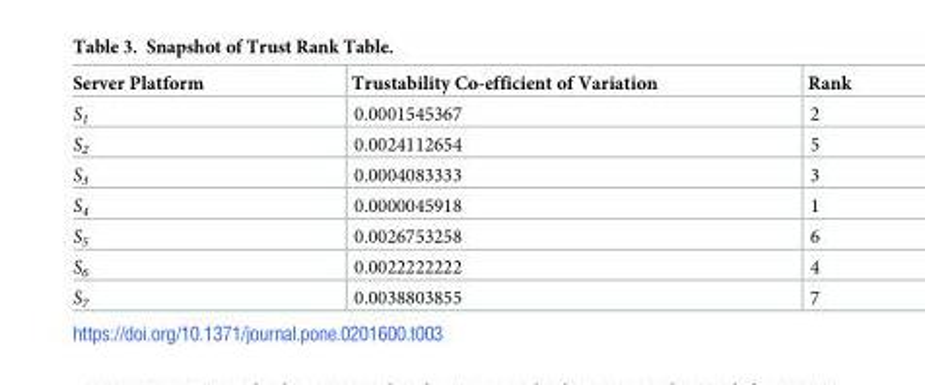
<table><thead><tr><td>Server Platform</td><td>Trustability Co-efficient of Variation</td><td>Rank</td></tr></thead><tbody><tr><td>S<sub>1</sub></td><td>0.0001545367</td><td>2</td></tr><tr><td>S<sub>2</sub></td><td>0.0024112654</td><td>5</td></tr><tr><td>S<sub>3</sub></td><td>0.0004083333</td><td>3</td></tr><tr><td>S<sub>4</sub></td><td>0.0000045918</td><td>1</td></tr><tr><td>S<sub>5</sub></td><td>0.0026753258</td><td>6</td></tr><tr><td>S<sub>6</sub></td><td>0.0022222222</td><td>4</td></tr><tr><td>S<sub>7</sub></td><td>0.0038803855</td><td>7</td></tr></tbody></table>